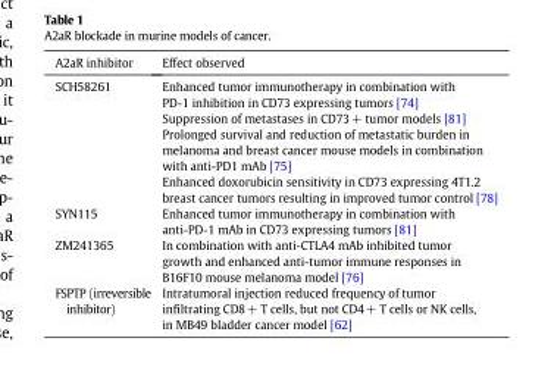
<table><thead><tr><td>A2aR inhibitor</td><td>Effect observed</td></tr></thead><tbody><tr><td>SCH58261</td><td>Enhanced tumor immunotherapy in combination with PD-1 inhibition in CD73 expressing tumors [74] Suppression of metastases in CD73+ tumor models [81] Prolonged survival and reduction of metastatic burden in melanoma and breast cancer mouse models in combination with anti-PD1 mAb [75] Enhanced doxorubicin sensitivity in CD73 expressing 4T1.2 breast cancer tumors resulting in improved tumor control [78]</td></tr><tr><td>SYN115</td><td>Enhanced tumor immunotherapy in combination with anti-PD-1 mAb in CD73 expressing tumors [81]</td></tr><tr><td>ZM241365</td><td>In combination with anti-CTLA4 mAb inhibited tumor growth and enhanced anti-tumor immune responses in B16F10 mouse melanoma model [76]</td></tr><tr><td>FSPTP (irreversible inhibitor)</td><td>Intratumoral injection reduced frequency of tumor infiltrating CD8+ T cells, but not CD4+ T cells or NK cells, in MB49 bladder cancer model [62]</td></tr></tbody></table>